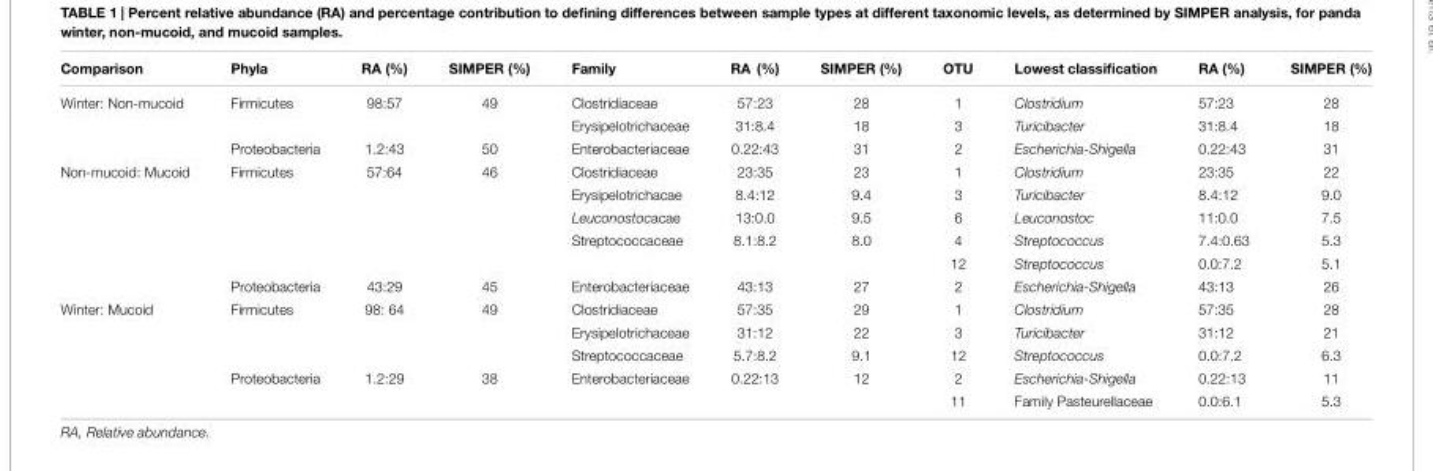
<table><thead><tr><td>Comparison</td><td>Phyla</td><td>RA (%)</td><td>SIMPER (%)</td><td>Family</td><td>RA (%)</td><td>SIMPER (%)</td><td>OTU</td><td>Lowest classification</td><td>RA (%)</td><td>SIMPER (%)</td></tr></thead><tbody><tr><td rowspan="3">Winter: Non-mucoid</td><td>Firmicutes</td><td>98:57</td><td>49</td><td>Clostridiaceae</td><td>57:23</td><td>28</td><td>1</td><td>Clostridium</td><td>57:23</td><td>28</td></tr><tr><td></td><td></td><td></td><td>Erysipelotrichaceae</td><td>31:8.4</td><td>18</td><td>3</td><td>Turicibacter</td><td>31:8.4</td><td>18</td></tr><tr><td>Proteobacteria</td><td>1.2:43</td><td>50</td><td>Enterobacteriaceae</td><td>0.22:43</td><td>31</td><td>2</td><td>Escherichia-Shigella</td><td>0.22:43</td><td>31</td></tr><tr><td rowspan="6">Non-mucoid: Mucoid</td><td>Firmicutes</td><td>57:64</td><td>46</td><td>Clostridiaceae</td><td>23:35</td><td>23</td><td>1</td><td>Clostridium</td><td>23:35</td><td>22</td></tr><tr><td></td><td></td><td></td><td>Erysipelotrichacae</td><td>8.4:12</td><td>9.4</td><td>3</td><td>Turicibacter</td><td>8.4:12</td><td>9.0</td></tr><tr><td></td><td></td><td></td><td>Leuconostocacae</td><td>13:0.0</td><td>9.5</td><td>6</td><td>Leuconostoc</td><td>11:0.0</td><td>7.5</td></tr><tr><td></td><td></td><td></td><td>Streptococcaceae</td><td>8.1:8.2</td><td>8.0</td><td>4</td><td>Streptococcus</td><td>7.4:0.63</td><td>5.3</td></tr><tr><td></td><td></td><td></td><td></td><td></td><td></td><td>12</td><td>Streptococcus</td><td>0.0:7.2</td><td>5.1</td></tr><tr><td>Proteobacteria</td><td>43:29</td><td>45</td><td>Enterobacteriaceae</td><td>43:13</td><td>27</td><td>2</td><td>Escherichia-Shigella</td><td>43:13</td><td>26</td></tr><tr><td rowspan="5">Winter: Mucoid</td><td>Firmicutes</td><td>98: 64</td><td>49</td><td>Clostridiaceae</td><td>57:35</td><td>29</td><td>1</td><td>Clostridium</td><td>57:35</td><td>28</td></tr><tr><td></td><td></td><td></td><td>Erysipelotrichaceae</td><td>31:12</td><td>22</td><td>3</td><td>Turicibacter</td><td>31:12</td><td>21</td></tr><tr><td></td><td></td><td></td><td>Streptococcaceae</td><td>5.7:8.2</td><td>9.1</td><td>12</td><td>Streptococcus</td><td>0.0:7.2</td><td>6.3</td></tr><tr><td>Proteobacteria</td><td>1.2:29</td><td>38</td><td>Enterobacteriaceae</td><td>0.22:13</td><td>12</td><td>2</td><td>Escherichia-Shigella</td><td>0.22:13</td><td>11</td></tr><tr><td></td><td></td><td></td><td></td><td></td><td></td><td>11</td><td>Family Pasteurellaceae</td><td>0.0:6.1</td><td>5.3</td></tr></tbody></table>